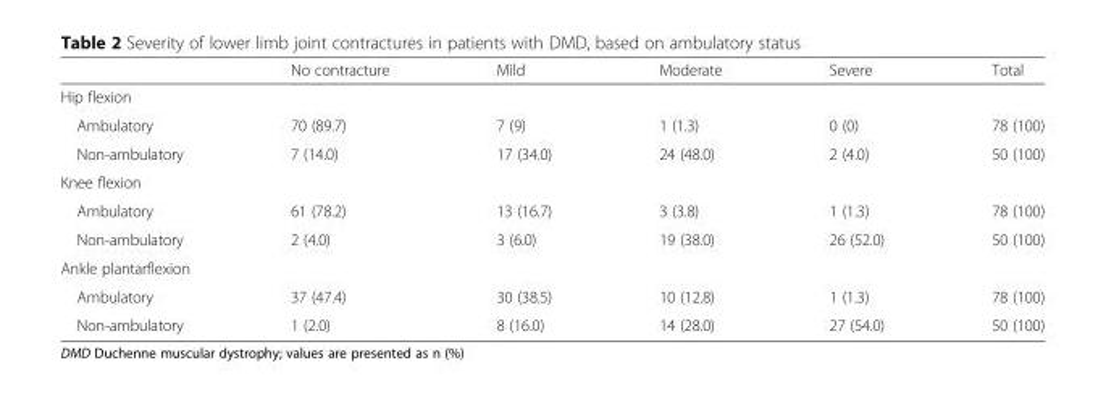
<table><thead><tr><td></td><td>No contracture</td><td>Mild</td><td>Moderate</td><td>Severe</td><td>Total</td></tr></thead><tbody><tr><td colspan="6">Hip flexion</td></tr><tr><td>Ambulatory</td><td>70 (89.7)</td><td>7 (9)</td><td>1 (1.3)</td><td>0 (0)</td><td>78 (100)</td></tr><tr><td>Non-ambulatory</td><td>7 (14.0)</td><td>17 (34.0)</td><td>24 (48.0)</td><td>2 (4.0)</td><td>50 (100)</td></tr><tr><td colspan="6">Knee flexion</td></tr><tr><td>Ambulatory</td><td>61 (78.2)</td><td>13 (16.7)</td><td>3 (3.8)</td><td>1 (1.3)</td><td>78 (100)</td></tr><tr><td>Non-ambulatory</td><td>2 (4.0)</td><td>3 (6.0)</td><td>19 (38.0)</td><td>26 (52.0)</td><td>50 (100)</td></tr><tr><td colspan="6">Ankle plantarflexion</td></tr><tr><td>Ambulatory</td><td>37 (47.4)</td><td>30 (38.5)</td><td>10 (12.8)</td><td>1 (1.3)</td><td>78 (100)</td></tr><tr><td>Non-ambulatory</td><td>1 (2.0)</td><td>8 (16.0)</td><td>14 (28.0)</td><td>27 (54.0)</td><td>50 (100)</td></tr></tbody></table>